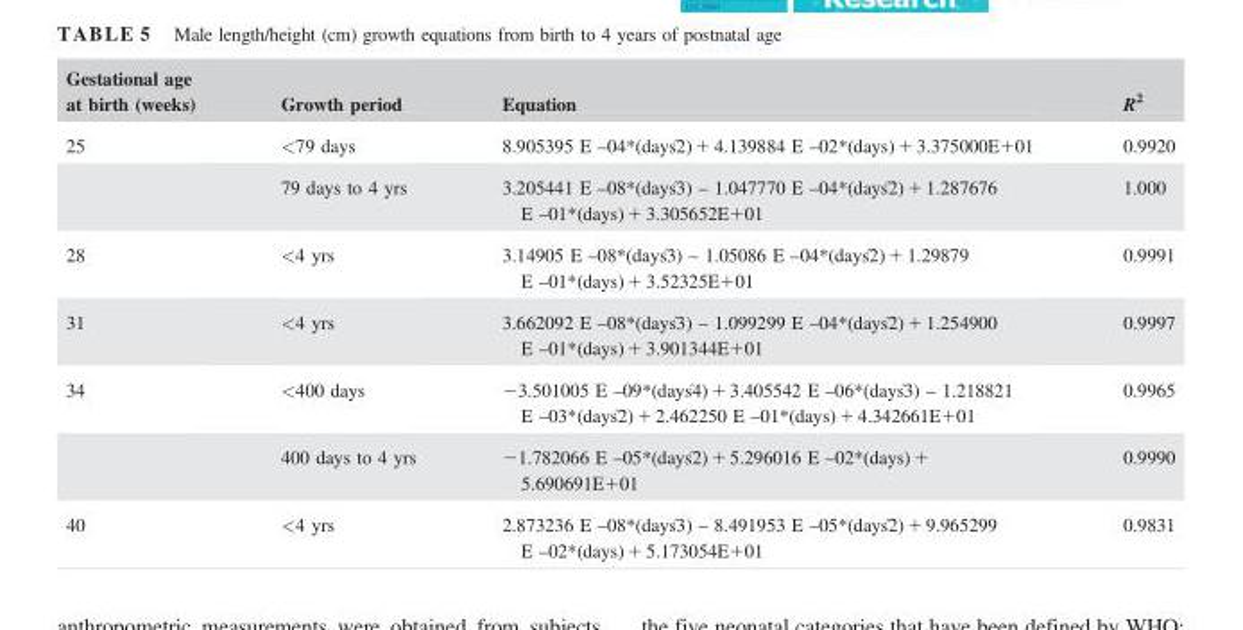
<table><thead><tr><td>Gestational age at birth (weeks)</td><td>Growth period</td><td>Equation</td><td>R<sup>2</sup></td></tr></thead><tbody><tr><td rowspan="2">25</td><td>&lt;79 days</td><td>8.905395 E –04*(days^2) + 4.139884 E –02*(days) + 3.375000E+01</td><td>0.9920</td></tr><tr><td>79 days to 4 yrs</td><td>3.205441 E –08*(days^3) – 1.047770 E –04*(days^2) + 1.287676 E –01*(days) + 3.305652E+01</td><td>1.000</td></tr><tr><td>28</td><td>&lt;4 yrs</td><td>3.14905 E –08*(days^3) – 1.05086 E –04*(days^2) + 1.29879 E –01*(days) + 3.52325E+01</td><td>0.9991</td></tr><tr><td>31</td><td>&lt;4 yrs</td><td>3.662092 E –08*(days^3) – 1.099299 E –04*(days^2) + 1.254900 E –01*(days) + 3.901344E+01</td><td>0.9997</td></tr><tr><td rowspan="2">34</td><td>&lt;400 days</td><td>−3.501005 E –09*(days^4) + 3.405542 E –06*(days^3) – 1.218821 E –03*(days^2) + 2.462250 E –01*(days) + 4.342661E+01</td><td>0.9965</td></tr><tr><td>400 days to 4 yrs</td><td>−1.782066 E –05*(days^2) + 5.296016 E –02*(days) + 5.690691E+01</td><td>0.9990</td></tr><tr><td>40</td><td>&lt;4 yrs</td><td>2.873236 E –08*(days^3) – 8.491953 E –05*(days^2) + 9.965299 E –02*(days) + 5.173054E+01</td><td>0.9831</td></tr></tbody></table>